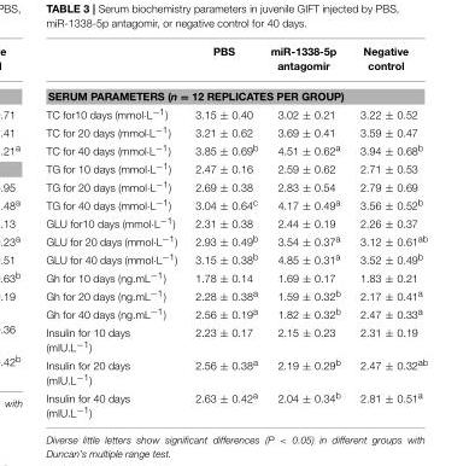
<table><thead><tr><td></td><td>PBS</td><td>miR-1338-5p antagomir</td><td>Negative control</td></tr></thead><tbody><tr><td colspan="4">SERUM PARAMETERS (n = 12 REPLICATES PER GROUP)</td></tr><tr><td>TC for10 days (mmol·L<sup>−1</sup>)</td><td>3.15 ± 0.40</td><td>3.02 ± 0.21</td><td>3.22 ± 0.52</td></tr><tr><td>TC for 20 days (mmol·L<sup>−1</sup>)</td><td>3.21 ± 0.62</td><td>3.69 ± 0.41</td><td>3.59 ± 0.47</td></tr><tr><td>TC for 40 days (mmol·L<sup>−1</sup>)</td><td>3.85 ± 0.69<sup>b</sup></td><td>4.51 ± 0.62<sup>a</sup></td><td>3.94 ± 0.68<sup>b</sup></td></tr><tr><td>TG for 10 days (mmol·L<sup>−1</sup>)</td><td>2.47 ± 0.16</td><td>2.59 ± 0.62</td><td>2.71 ± 0.53</td></tr><tr><td>TG for 20 days (mmol·L<sup>−1</sup>)</td><td>2.69 ± 0.38</td><td>2.83 ± 0.54</td><td>2.79 ± 0.69</td></tr><tr><td>TG for 40 days (mmol·L<sup>−1</sup>)</td><td>3.04 ± 0.64<sup>c</sup></td><td>4.17 ± 0.49<sup>a</sup></td><td>3.56 ± 0.52<sup>b</sup></td></tr><tr><td>GLU for10 days (mmol·L<sup>−1</sup>)</td><td>2.31 ± 0.38</td><td>2.44 ± 0.19</td><td>2.26 ± 0.37</td></tr><tr><td>GLU for 20 days (mmol·L<sup>−1</sup>)</td><td>2.93 ± 0.49<sup>b</sup></td><td>3.54 ± 0.37<sup>a</sup></td><td>3.12 ± 0.61<sup>ab</sup></td></tr><tr><td>GLU for 40 days (mmol·L<sup>−1</sup>)</td><td>3.15 ± 0.38<sup>b</sup></td><td>4.85 ± 0.31<sup>a</sup></td><td>3.52 ± 0.49<sup>b</sup></td></tr><tr><td>Gh for 10 days (ng.mL<sup>−1</sup>)</td><td>1.78 ± 0.14</td><td>1.69 ± 0.17</td><td>1.83 ± 0.21</td></tr><tr><td>Gh for 20 days (ng.mL<sup>−1</sup>)</td><td>2.28 ± 0.38<sup>a</sup></td><td>1.59 ± 0.32<sup>b</sup></td><td>2.17 ± 0.41<sup>a</sup></td></tr><tr><td>Gh for 40 days (ng.mL<sup>−1</sup>)</td><td>2.56 ± 0.19<sup>a</sup></td><td>1.82 ± 0.32<sup>b</sup></td><td>2.47 ± 0.33<sup>a</sup></td></tr><tr><td>Insulin for 10 days (mIU.L<sup>−1</sup>)</td><td>2.23 ± 0.17</td><td>2.15 ± 0.23</td><td>2.31 ± 0.19</td></tr><tr><td>Insulin for 20 days (mIU.L<sup>−1</sup>)</td><td>2.56 ± 0.38<sup>a</sup></td><td>2.19 ± 0.29<sup>b</sup></td><td>2.47 ± 0.32<sup>ab</sup></td></tr><tr><td>Insulin for 40 days (mIU.L<sup>−1</sup>)</td><td>2.63 ± 0.42<sup>a</sup></td><td>2.04 ± 0.34<sup>b</sup></td><td>2.81 ± 0.51<sup>a</sup></td></tr></tbody></table>